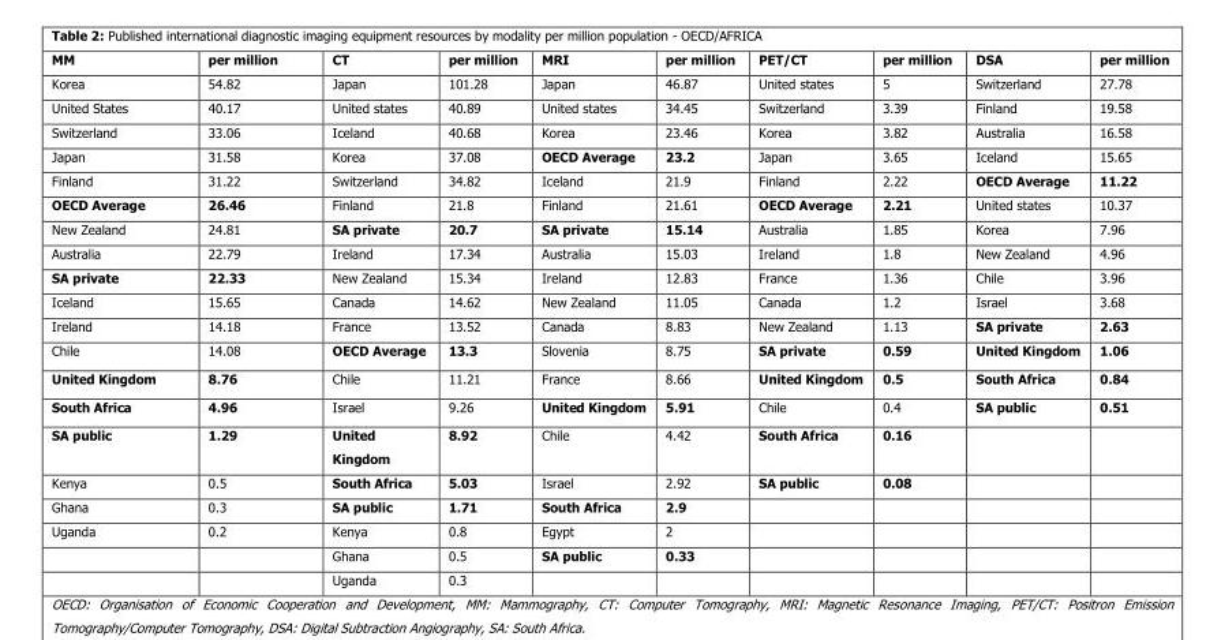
<table><thead><tr><td>MM</td><td>per million</td><td>CT</td><td>per million</td><td>MRI</td><td>per million</td><td>PET/CT</td><td>per million</td><td>DSA</td><td>per million</td></tr></thead><tbody><tr><td>Korea</td><td>54.82</td><td>Japan</td><td>101.28</td><td>Japan</td><td>46.87</td><td>United states</td><td>5</td><td>Switzerland</td><td>27.78</td></tr><tr><td>United States</td><td>40.17</td><td>United states</td><td>40.89</td><td>United states</td><td>34.45</td><td>Switzerland</td><td>3.39</td><td>Finland</td><td>19.58</td></tr><tr><td>Switzerland</td><td>33.06</td><td>Iceland</td><td>40.68</td><td>Korea</td><td>23.46</td><td>Korea</td><td>3.82</td><td>Australia</td><td>16.58</td></tr><tr><td>Japan</td><td>31.58</td><td>Korea</td><td>37.08</td><td>OECD Average</td><td>23.2</td><td>Japan</td><td>3.65</td><td>Iceland</td><td>15.65</td></tr><tr><td>Finland</td><td>31.22</td><td>Switzerland</td><td>34.82</td><td>Iceland</td><td>21.9</td><td>Finland</td><td>2.22</td><td>OECD Average</td><td>11.22</td></tr><tr><td>OECD Average</td><td>26.46</td><td>Finland</td><td>21.8</td><td>Finland</td><td>21.61</td><td>OECD Average</td><td>2.21</td><td>United states</td><td>10.37</td></tr><tr><td>New Zealand</td><td>24.81</td><td>SA private</td><td>20.7</td><td>SA private</td><td>15.14</td><td>Australia</td><td>1.85</td><td>Korea</td><td>7.96</td></tr><tr><td>Australia</td><td>22.79</td><td>Ireland</td><td>17.34</td><td>Australia</td><td>15.03</td><td>Ireland</td><td>1.8</td><td>New Zealand</td><td>4.96</td></tr><tr><td>SA private</td><td>22.33</td><td>New Zealand</td><td>15.34</td><td>Ireland</td><td>12.83</td><td>France</td><td>1.36</td><td>Chile</td><td>3.96</td></tr><tr><td>Iceland</td><td>15.65</td><td>Canada</td><td>14.62</td><td>New Zealand</td><td>11.05</td><td>Canada</td><td>1.2</td><td>Israel</td><td>3.68</td></tr><tr><td>Ireland</td><td>14.18</td><td>France</td><td>13.52</td><td>Canada</td><td>8.83</td><td>New Zealand</td><td>1.13</td><td>SA private</td><td>2.63</td></tr><tr><td>Chile</td><td>14.08</td><td>OECD Average</td><td>13.3</td><td>Slovenia</td><td>8.75</td><td>SA private</td><td>0.59</td><td>United Kingdom</td><td>1.06</td></tr><tr><td>United Kingdom</td><td>8.76</td><td>Chile</td><td>11.21</td><td>France</td><td>8.66</td><td>United Kingdom</td><td>0.5</td><td>South Africa</td><td>0.84</td></tr><tr><td>South Africa</td><td>4.96</td><td>Israel</td><td>9.26</td><td>United Kingdom</td><td>5.91</td><td>Chile</td><td>0.4</td><td>SA public</td><td>0.51</td></tr><tr><td>SA public</td><td>1.29</td><td>United Kingdom</td><td>8.92</td><td>Chile</td><td>4.42</td><td>South Africa</td><td>0.16</td><td></td><td></td></tr><tr><td>Kenya</td><td>0.5</td><td>South Africa</td><td>5.03</td><td>Israel</td><td>2.92</td><td>SA public</td><td>0.08</td><td></td><td></td></tr><tr><td>Ghana</td><td>0.3</td><td>SA public</td><td>1.71</td><td>South Africa</td><td>2.9</td><td></td><td></td><td></td><td></td></tr><tr><td rowspan="3">Uganda</td><td>0.2</td><td>Kenya</td><td>0.8</td><td>Egypt</td><td>2</td><td></td><td></td><td></td><td></td></tr><tr><td></td><td>Ghana</td><td>0.5</td><td>SA public</td><td>0.33</td><td></td><td></td><td></td><td></td></tr><tr><td></td><td>Uganda</td><td>0.3</td><td></td><td></td><td></td><td></td><td></td><td></td></tr></tbody></table>